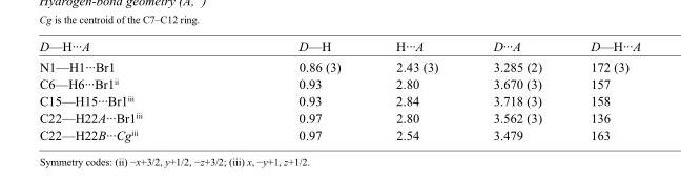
<table><tbody><tr><td>D—H···A</td><td>D—H</td><td>H···A</td><td>D···A</td><td>D—H···A</td></tr><tr><td>N1—H1···Br1</td><td>0.86 (3)</td><td>2.43 (3)</td><td>3.285 (2)</td><td>172 (3)</td></tr><tr><td>C6—H6···Br1<sup>ii</sup></td><td>0.93</td><td>2.80</td><td>3.670 (3)</td><td>157</td></tr><tr><td>C15—H15···Br1<sup>iii</sup></td><td>0.93</td><td>2.84</td><td>3.718 (3)</td><td>158</td></tr><tr><td>C22—H22A···Br1<sup>iii</sup></td><td>0.97</td><td>2.80</td><td>3.562 (3)</td><td>136</td></tr><tr><td>C22—H22B···Cg<sup>iii</sup></td><td>0.97</td><td>2.54</td><td>3.479</td><td>163</td></tr></tbody></table>